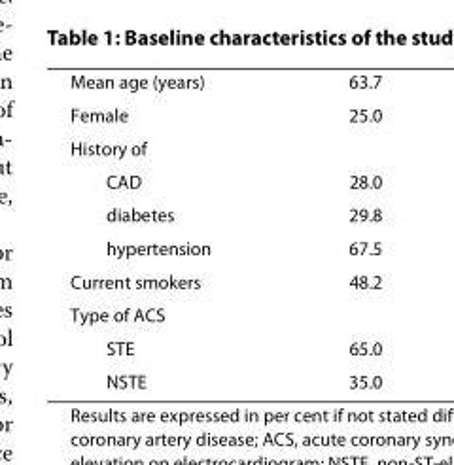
<table><tbody><tr><td>Mean age (years)</td><td>63.7</td></tr><tr><td>Female</td><td>25.0</td></tr><tr><td colspan="2">History of</td></tr><tr><td>CAD</td><td>28.0</td></tr><tr><td>diabetes</td><td>29.8</td></tr><tr><td>hypertension</td><td>67.5</td></tr><tr><td>Current smokers</td><td>48.2</td></tr><tr><td colspan="2">Type of ACS</td></tr><tr><td>STE</td><td>65.0</td></tr><tr><td>NSTE</td><td>35.0</td></tr></tbody></table>